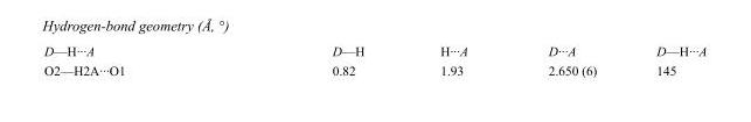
<table><tbody><tr><td>D—H···A</td><td>D—H</td><td>H···A</td><td>D···A</td><td>D—H···A</td></tr><tr><td>O2—H2A···O1</td><td>0.82</td><td>1.93</td><td>2.650 (6)</td><td>145</td></tr></tbody></table>